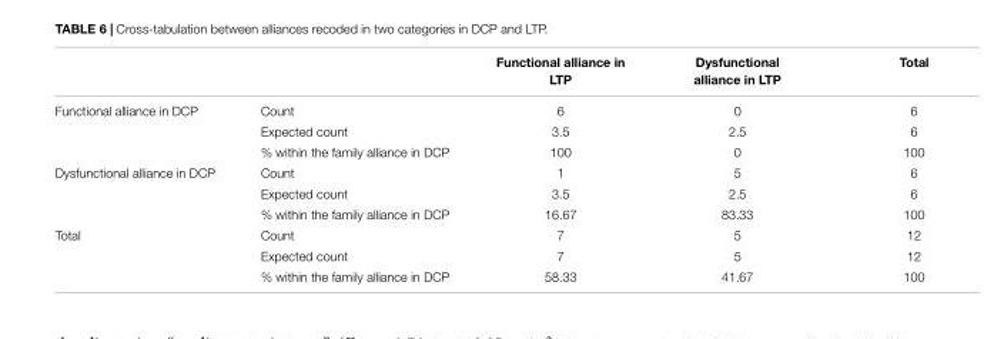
<table><thead><tr><td></td><td></td><td>Functional alliance in LTP</td><td>Dysfunctional alliance in LTP</td><td>Total</td></tr></thead><tbody><tr><td rowspan="3">Functional alliance in DCP</td><td>Count</td><td>6</td><td>0</td><td>6</td></tr><tr><td>Expected count</td><td>3.5</td><td>2.5</td><td>6</td></tr><tr><td>% within the family alliance in DCP</td><td>100</td><td>0</td><td>100</td></tr><tr><td rowspan="3">Dysfunctional alliance in DCP</td><td>Count</td><td>1</td><td>5</td><td>6</td></tr><tr><td>Expected count</td><td>3.5</td><td>2.5</td><td>6</td></tr><tr><td>% within the family alliance in DCP</td><td>16.67</td><td>83.33</td><td>100</td></tr><tr><td rowspan="3">Total</td><td>Count</td><td>7</td><td>5</td><td>12</td></tr><tr><td>Expected count</td><td>7</td><td>5</td><td>12</td></tr><tr><td>% within the family alliance in DCP</td><td>58.33</td><td>41.67</td><td>100</td></tr></tbody></table>